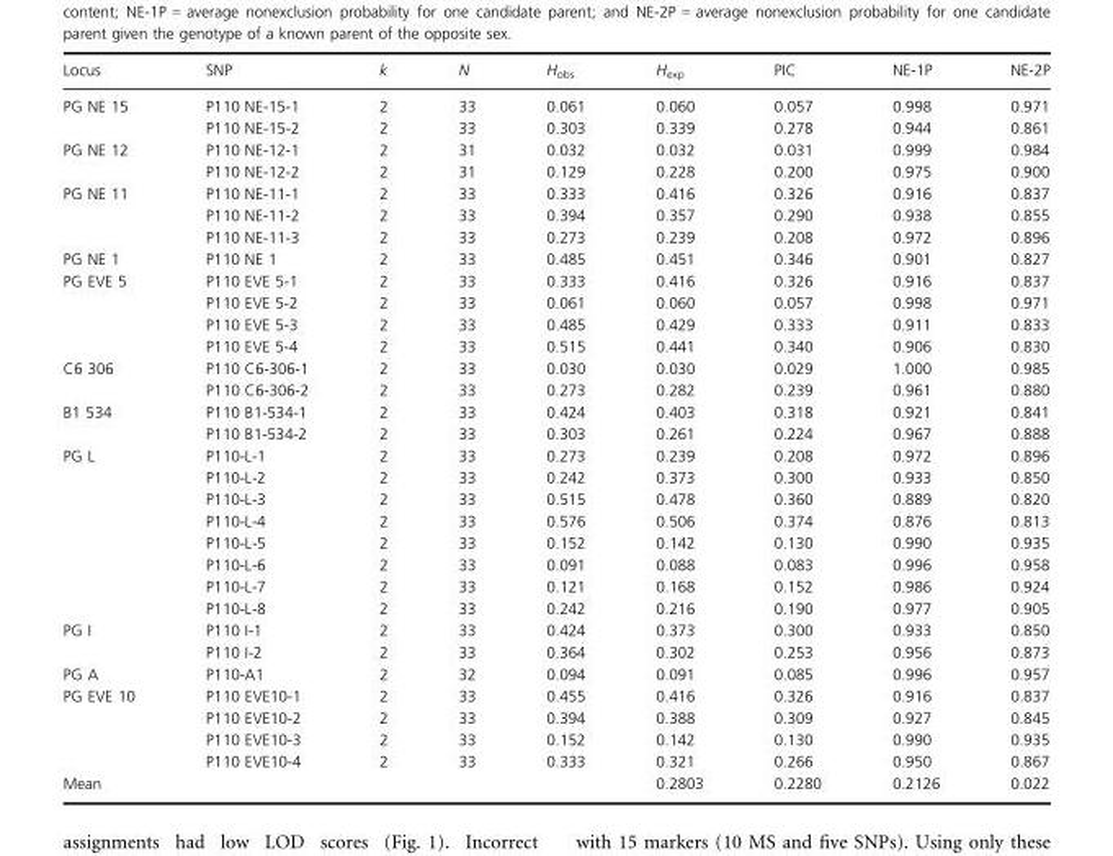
<table><thead><tr><td>Locus</td><td>SNP</td><td>k</td><td>N</td><td>H<sub>obs</sub></td><td>H<sub>exp</sub></td><td>PIC</td><td>NE-1P</td><td>NE-2P</td></tr></thead><tbody><tr><td rowspan="2">PG NE 15</td><td>P110 NE-15-1</td><td>2</td><td>33</td><td>0.061</td><td>0.060</td><td>0.057</td><td>0.998</td><td>0.971</td></tr><tr><td>P110 NE-15-2</td><td>2</td><td>33</td><td>0.303</td><td>0.339</td><td>0.278</td><td>0.944</td><td>0.861</td></tr><tr><td rowspan="2">PG NE 12</td><td>P110 NE-12-1</td><td>2</td><td>31</td><td>0.032</td><td>0.032</td><td>0.031</td><td>0.999</td><td>0.984</td></tr><tr><td>P110 NE-12-2</td><td>2</td><td>31</td><td>0.129</td><td>0.228</td><td>0.200</td><td>0.975</td><td>0.900</td></tr><tr><td rowspan="3">PG NE 11</td><td>P110 NE-11-1</td><td>2</td><td>33</td><td>0.333</td><td>0.416</td><td>0.326</td><td>0.916</td><td>0.837</td></tr><tr><td>P110 NE-11-2</td><td>2</td><td>33</td><td>0.394</td><td>0.357</td><td>0.290</td><td>0.938</td><td>0.855</td></tr><tr><td>P110 NE-11-3</td><td>2</td><td>33</td><td>0.273</td><td>0.239</td><td>0.208</td><td>0.972</td><td>0.896</td></tr><tr><td>PG NE 1</td><td>P110 NE 1</td><td>2</td><td>33</td><td>0.485</td><td>0.451</td><td>0.346</td><td>0.901</td><td>0.827</td></tr><tr><td rowspan="4">PG EVE 5</td><td>P110 EVE 5-1</td><td>2</td><td>33</td><td>0.333</td><td>0.416</td><td>0.326</td><td>0.916</td><td>0.837</td></tr><tr><td>P110 EVE 5-2</td><td>2</td><td>33</td><td>0.061</td><td>0.060</td><td>0.057</td><td>0.998</td><td>0.971</td></tr><tr><td>P110 EVE 5-3</td><td>2</td><td>33</td><td>0.485</td><td>0.429</td><td>0.333</td><td>0.911</td><td>0.833</td></tr><tr><td>P110 EVE 5-4</td><td>2</td><td>33</td><td>0.515</td><td>0.441</td><td>0.340</td><td>0.906</td><td>0.830</td></tr><tr><td rowspan="2">C6 306</td><td>P110 C6-306-1</td><td>2</td><td>33</td><td>0.030</td><td>0.030</td><td>0.029</td><td>1.000</td><td>0.985</td></tr><tr><td>P110 C6-306-2</td><td>2</td><td>33</td><td>0.273</td><td>0.282</td><td>0.239</td><td>0.961</td><td>0.880</td></tr><tr><td rowspan="2">B1 534</td><td>P110 B1-534-1</td><td>2</td><td>33</td><td>0.424</td><td>0.403</td><td>0.318</td><td>0.921</td><td>0.841</td></tr><tr><td>P110 B1-534-2</td><td>2</td><td>33</td><td>0.303</td><td>0.261</td><td>0.224</td><td>0.967</td><td>0.888</td></tr><tr><td rowspan="8">PG L</td><td>P110-L-1</td><td>2</td><td>33</td><td>0.273</td><td>0.239</td><td>0.208</td><td>0.972</td><td>0.896</td></tr><tr><td>P110-L-2</td><td>2</td><td>33</td><td>0.242</td><td>0.373</td><td>0.300</td><td>0.933</td><td>0.850</td></tr><tr><td>P110-L-3</td><td>2</td><td>33</td><td>0.515</td><td>0.478</td><td>0.360</td><td>0.889</td><td>0.820</td></tr><tr><td>P110-L-4</td><td>2</td><td>33</td><td>0.576</td><td>0.506</td><td>0.374</td><td>0.876</td><td>0.813</td></tr><tr><td>P110-L-5</td><td>2</td><td>33</td><td>0.152</td><td>0.142</td><td>0.130</td><td>0.990</td><td>0.935</td></tr><tr><td>P110-L-6</td><td>2</td><td>33</td><td>0.091</td><td>0.088</td><td>0.083</td><td>0.996</td><td>0.958</td></tr><tr><td>P110-L-7</td><td>2</td><td>33</td><td>0.121</td><td>0.168</td><td>0.152</td><td>0.986</td><td>0.924</td></tr><tr><td>P110-L-8</td><td>2</td><td>33</td><td>0.242</td><td>0.216</td><td>0.190</td><td>0.977</td><td>0.905</td></tr><tr><td rowspan="2">PG I</td><td>P110 I-1</td><td>2</td><td>33</td><td>0.424</td><td>0.373</td><td>0.300</td><td>0.933</td><td>0.850</td></tr><tr><td>P110 I-2</td><td>2</td><td>33</td><td>0.364</td><td>0.302</td><td>0.253</td><td>0.956</td><td>0.873</td></tr><tr><td>PG A</td><td>P110-A1</td><td>2</td><td>32</td><td>0.094</td><td>0.091</td><td>0.085</td><td>0.996</td><td>0.957</td></tr><tr><td rowspan="4">PG EVE 10</td><td>P110 EVE10-1</td><td>2</td><td>33</td><td>0.455</td><td>0.416</td><td>0.326</td><td>0.916</td><td>0.837</td></tr><tr><td>P110 EVE10-2</td><td>2</td><td>33</td><td>0.394</td><td>0.388</td><td>0.309</td><td>0.927</td><td>0.845</td></tr><tr><td>P110 EVE10-3</td><td>2</td><td>33</td><td>0.152</td><td>0.142</td><td>0.130</td><td>0.990</td><td>0.935</td></tr><tr><td>P110 EVE10-4</td><td>2</td><td>33</td><td>0.333</td><td>0.321</td><td>0.266</td><td>0.950</td><td>0.867</td></tr><tr><td>Mean</td><td></td><td></td><td></td><td></td><td>0.2803</td><td>0.2280</td><td>0.2126</td><td>0.022</td></tr></tbody></table>